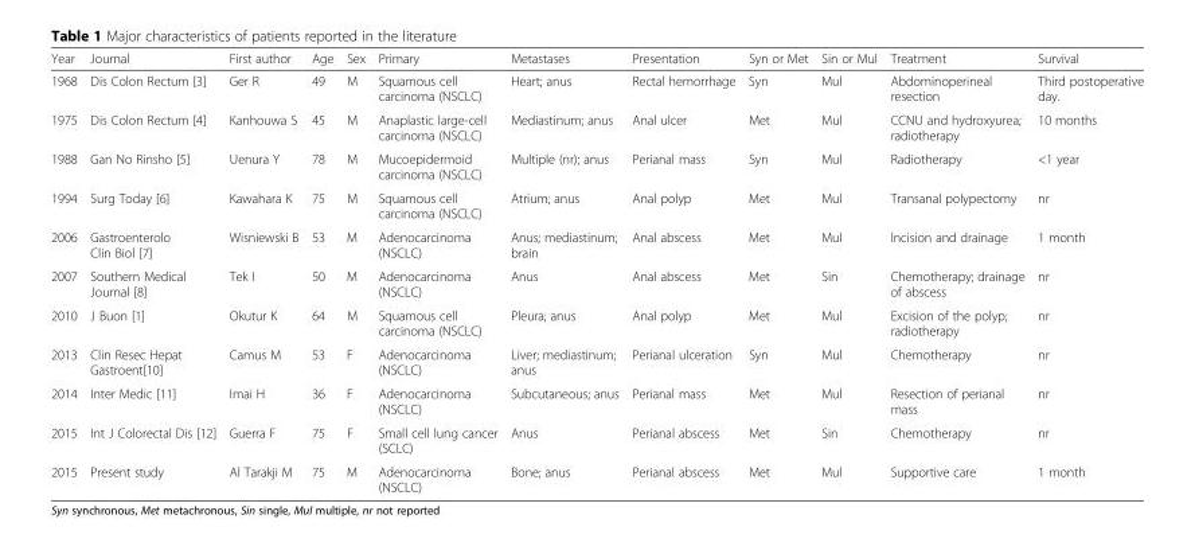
<table><thead><tr><td>Year</td><td>Journal</td><td>First author</td><td>Age</td><td>Sex</td><td>Primary</td><td>Metastases</td><td>Presentation</td><td>Syn or Met</td><td>Sin or Mul</td><td>Treatment</td><td>Survival</td></tr></thead><tbody><tr><td>1968</td><td>Dis Colon Rectum [3]</td><td>Ger R</td><td>49</td><td>M</td><td>Squamous cell carcinoma (NSCLC)</td><td>Heart; anus</td><td>Rectal hemorrhage</td><td>Syn</td><td>Mul</td><td>Abdominoperineal resection</td><td>Third postoperative day.</td></tr><tr><td>1975</td><td>Dis Colon Rectum [4]</td><td>Kanhouwa S</td><td>45</td><td>M</td><td>Anaplastic large-cell carcinoma (NSCLC)</td><td>Mediastinum; anus</td><td>Anal ulcer</td><td>Met</td><td>Mul</td><td>CCNU and hydroxyurea; radiotherapy</td><td>10 months</td></tr><tr><td>1988</td><td>Gan No Rinsho [5]</td><td>Uenura Y</td><td>78</td><td>M</td><td>Mucoepidermoid carcinoma (NSCLC)</td><td>Multiple (nr); anus</td><td>Perianal mass</td><td>Syn</td><td>Mul</td><td>Radiotherapy</td><td>&lt;1 year</td></tr><tr><td>1994</td><td>Surg Today [6]</td><td>Kawahara K</td><td>75</td><td>M</td><td>Squamous cell carcinoma (NSCLC)</td><td>Atrium; anus</td><td>Anal polyp</td><td>Met</td><td>Mul</td><td>Transanal polypectomy</td><td>nr</td></tr><tr><td>2006</td><td>Gastroenterolo Clin Biol [7]</td><td>Wisniewski B</td><td>53</td><td>M</td><td>Adenocarcinoma (NSCLC)</td><td>Anus; mediastinum; brain</td><td>Anal abscess</td><td>Met</td><td>Mul</td><td>Incision and drainage</td><td>1 month</td></tr><tr><td>2007</td><td>Southern Medical Journal [8]</td><td>Tek I</td><td>50</td><td>M</td><td>Adenocarcinoma (NSCLC)</td><td>Anus</td><td>Anal abscess</td><td>Met</td><td>Sin</td><td>Chemotherapy; drainage of abscess</td><td>nr</td></tr><tr><td>2010</td><td>J Buon [1]</td><td>Okutur K</td><td>64</td><td>M</td><td>Squamous cell carcinoma (NSCLC)</td><td>Pleura; anus</td><td>Anal polyp</td><td>Met</td><td>Mul</td><td>Excision of the polyp; radiotherapy</td><td>nr</td></tr><tr><td>2013</td><td>Clin Resec Hepat Gastroent[10]</td><td>Camus M</td><td>53</td><td>F</td><td>Adenocarcinoma (NSCLC)</td><td>Liver; mediastinum; anus</td><td>Perianal ulceration</td><td>Syn</td><td>Mul</td><td>Chemotherapy</td><td>nr</td></tr><tr><td>2014</td><td>Inter Medic [11]</td><td>Imai H</td><td>36</td><td>F</td><td>Adenocarcinoma (NSCLC)</td><td>Subcutaneous; anus</td><td>Perianal mass</td><td>Met</td><td>Mul</td><td>Resection of perianal mass</td><td>nr</td></tr><tr><td>2015</td><td>Int J Colorectal Dis [12]</td><td>Guerra F</td><td>75</td><td>F</td><td>Small cell lung cancer (SCLC)</td><td>Anus</td><td>Perianal abscess</td><td>Met</td><td>Sin</td><td>Chemotherapy</td><td>nr</td></tr><tr><td>2015</td><td>Present study</td><td>Al Tarakji M</td><td>75</td><td>M</td><td>Adenocarcinoma (NSCLC)</td><td>Bone; anus</td><td>Perianal abscess</td><td>Met</td><td>Mul</td><td>Supportive care</td><td>1 month</td></tr></tbody></table>